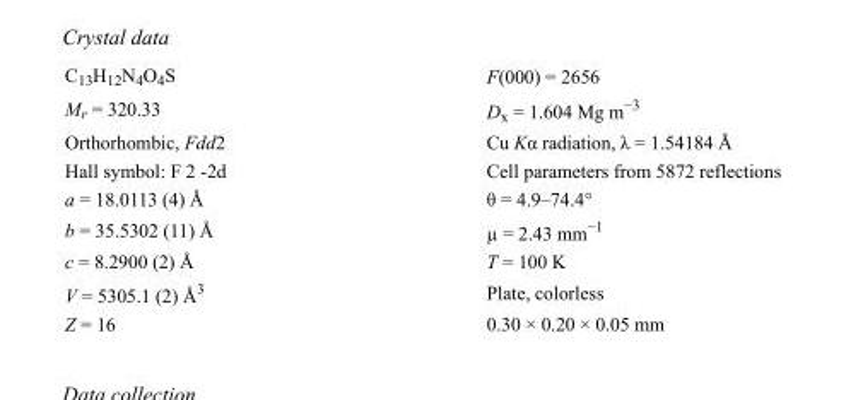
<table><tbody><tr><td>C<sub>13</sub>H<sub>12</sub>N<sub>4</sub>O<sub>4</sub>S</td><td>F(000) = 2656</td></tr><tr><td>M<sub>r</sub> = 320.33</td><td>D<sub>x</sub> = 1.604 Mg m<sup>−3</sup></td></tr><tr><td>Orthorhombic, Fdd2</td><td>Cu Kα radiation, λ = 1.54184 Å</td></tr><tr><td>Hall symbol: F 2 -2d</td><td>Cell parameters from 5872 reflections</td></tr><tr><td>a = 18.0113 (4) Å</td><td>θ = 4.9–74.4°</td></tr><tr><td>b = 35.5302 (11) Å</td><td>µ = 2.43 mm<sup>−1</sup></td></tr><tr><td>c = 8.2900 (2) Å</td><td>T = 100 K</td></tr><tr><td>V = 5305.1 (2) Å<sup>3</sup></td><td>Plate, colorless</td></tr><tr><td>Z = 16</td><td>0.30 × 0.20 × 0.05 mm</td></tr></tbody></table>